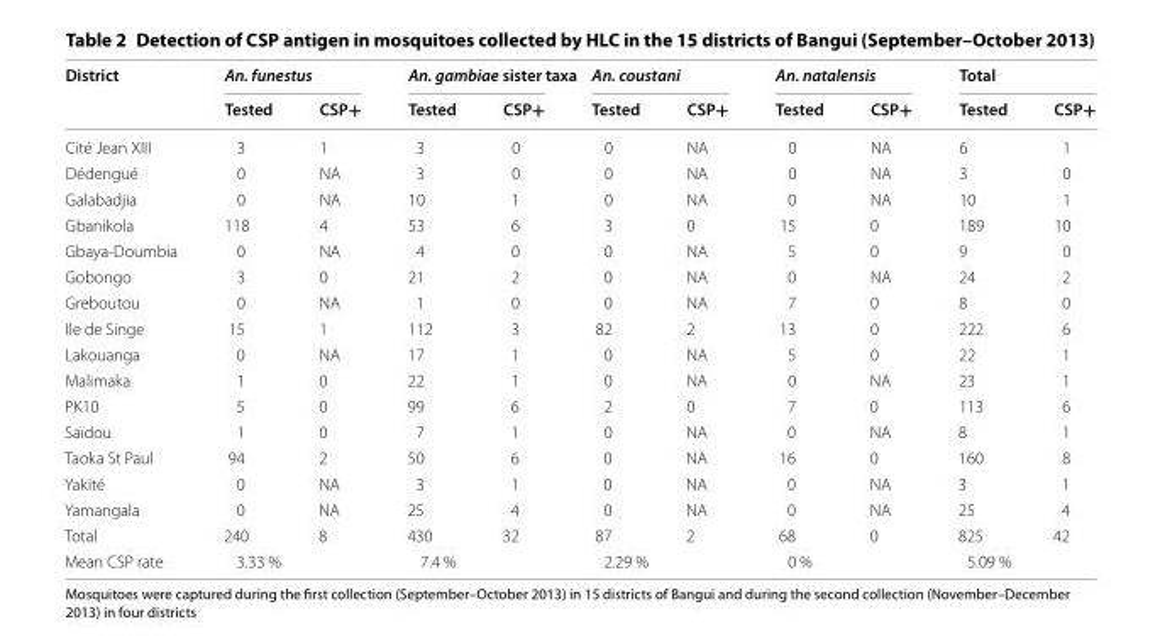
<table><thead><tr><td rowspan="2">District</td><td colspan="2">An. funestus</td><td colspan="2">An. gambiae sister taxa</td><td colspan="2">An. coustani</td><td colspan="2">An. natalensis</td><td colspan="2">Total</td></tr><tr><td>Tested</td><td>CSP+</td><td>Tested</td><td>CSP+</td><td>Tested</td><td>CSP+</td><td>Tested</td><td>CSP+</td><td>Tested</td><td>CSP+</td></tr></thead><tbody><tr><td>Cité Jean XIII</td><td>3</td><td>1</td><td>3</td><td>0</td><td>0</td><td>NA</td><td>0</td><td>NA</td><td>6</td><td>1</td></tr><tr><td>Dédengué</td><td>0</td><td>NA</td><td>3</td><td>0</td><td>0</td><td>NA</td><td>0</td><td>NA</td><td>3</td><td>0</td></tr><tr><td>Galabadjia</td><td>0</td><td>NA</td><td>10</td><td>1</td><td>0</td><td>NA</td><td>0</td><td>NA</td><td>10</td><td>1</td></tr><tr><td>Gbanikola</td><td>118</td><td>4</td><td>53</td><td>6</td><td>3</td><td>0</td><td>15</td><td>0</td><td>189</td><td>10</td></tr><tr><td>Gbaya-Doumbia</td><td>0</td><td>NA</td><td>4</td><td>0</td><td>0</td><td>NA</td><td>5</td><td>0</td><td>9</td><td>0</td></tr><tr><td>Gobongo</td><td>3</td><td>0</td><td>21</td><td>2</td><td>0</td><td>NA</td><td>0</td><td>NA</td><td>24</td><td>2</td></tr><tr><td>Greboutou</td><td>0</td><td>NA</td><td>1</td><td>0</td><td>0</td><td>NA</td><td>7</td><td>0</td><td>8</td><td>0</td></tr><tr><td>Ile de Singe</td><td>15</td><td>1</td><td>112</td><td>3</td><td>82</td><td>2</td><td>13</td><td>0</td><td>222</td><td>6</td></tr><tr><td>Lakouanga</td><td>0</td><td>NA</td><td>17</td><td>1</td><td>0</td><td>NA</td><td>5</td><td>0</td><td>22</td><td>1</td></tr><tr><td>Malimaka</td><td>1</td><td>0</td><td>22</td><td>1</td><td>0</td><td>NA</td><td>0</td><td>NA</td><td>23</td><td>1</td></tr><tr><td>PK10</td><td>5</td><td>0</td><td>99</td><td>6</td><td>2</td><td>0</td><td>7</td><td>0</td><td>113</td><td>6</td></tr><tr><td>Saïdou</td><td>1</td><td>0</td><td>7</td><td>1</td><td>0</td><td>NA</td><td>0</td><td>NA</td><td>8</td><td>1</td></tr><tr><td>Taoka St Paul</td><td>94</td><td>2</td><td>50</td><td>6</td><td>0</td><td>NA</td><td>16</td><td>0</td><td>160</td><td>8</td></tr><tr><td>Yakité</td><td>0</td><td>NA</td><td>3</td><td>1</td><td>0</td><td>NA</td><td>0</td><td>NA</td><td>3</td><td>1</td></tr><tr><td>Yamangala</td><td>0</td><td>NA</td><td>25</td><td>4</td><td>0</td><td>NA</td><td>0</td><td>NA</td><td>25</td><td>4</td></tr><tr><td>Total</td><td>240</td><td>8</td><td>430</td><td>32</td><td>87</td><td>2</td><td>68</td><td>0</td><td>825</td><td>42</td></tr><tr><td>Mean CSP rate</td><td colspan="2">3.33 %</td><td colspan="2">7.4 %</td><td colspan="2">2.29 %</td><td colspan="2">0 %</td><td colspan="2">5.09 %</td></tr></tbody></table>